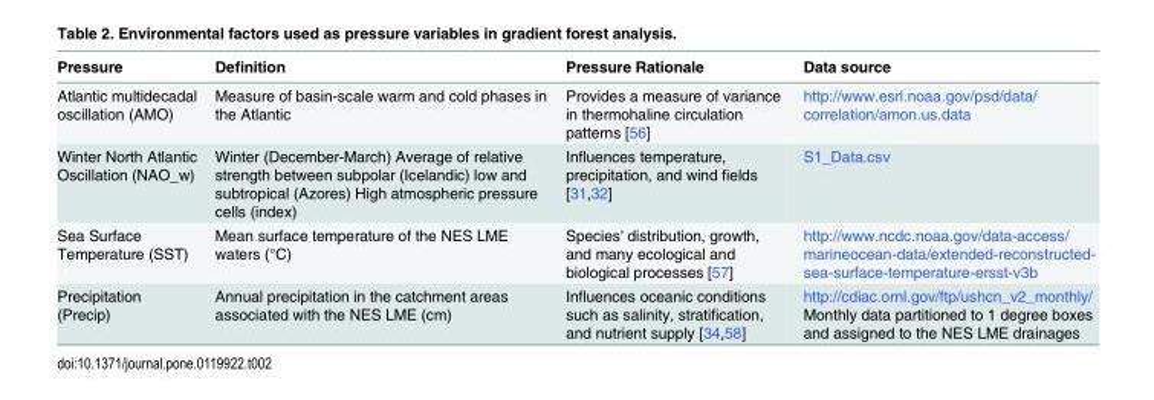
<table><thead><tr><td>Pressure</td><td>Definition</td><td>Pressure Rationale</td><td>Data source</td></tr></thead><tbody><tr><td>Atlantic multidecadal oscillation (AMO)</td><td>Measure of basin-scale warm and cold phases in the Atlantic</td><td>Provides a measure of variance in thermohaline circulation patterns [56]</td><td>http://www.esrl.noaa.gov/psd/data/ correlation/amon.us.data</td></tr><tr><td>Winter North Atlantic Oscillation (NAO_w)</td><td>Winter (December-March) Average of relative strength between subpolar (Icelandic) low and subtropical (Azores) High atmospheric pressure cells (index)</td><td>Influences temperature, precipitation, and wind fields [31,32]</td><td>S1_Data.csv</td></tr><tr><td>Sea Surface Temperature (SST)</td><td>Mean surface temperature of the NES LME waters (°C)</td><td>Species&#x27; distribution, growth, and many ecological and biological processes [57]</td><td>http://www.ncdc.noaa.gov/data-access/ marineocean-data/extended-reconstructed- sea-surface-temperature-ersst-v3b</td></tr><tr><td>Precipitation (Precip)</td><td>Annual precipitation in the catchment areas associated with the NES LME (cm)</td><td>Influences oceanic conditions such as salinity, stratification, and nutrient supply [34,58]</td><td>http://cdiac.ornl.gov/ftp/ushcn_v2_monthly/ Monthly data partitioned to 1 degree boxes and assigned to the NES LME drainages</td></tr></tbody></table>